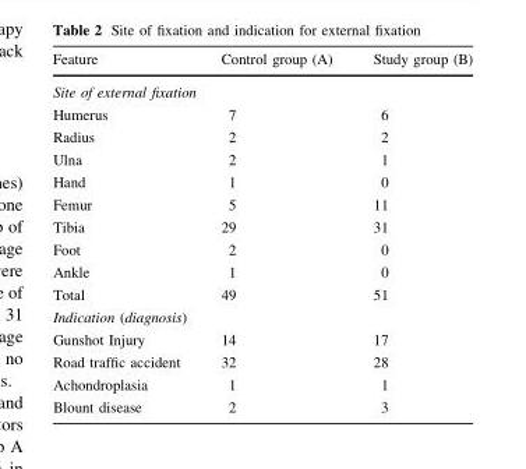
<table><thead><tr><td>Feature</td><td>Control group (A)</td><td>Study group (B)</td></tr></thead><tbody><tr><td colspan="3">Site of external fixation</td></tr><tr><td>Humerus</td><td>7</td><td>6</td></tr><tr><td>Radius</td><td>2</td><td>2</td></tr><tr><td>Ulna</td><td>2</td><td>1</td></tr><tr><td>Hand</td><td>1</td><td>0</td></tr><tr><td>Femur</td><td>5</td><td>11</td></tr><tr><td>Tibia</td><td>29</td><td>31</td></tr><tr><td>Foot</td><td>2</td><td>0</td></tr><tr><td>Ankle</td><td>1</td><td>0</td></tr><tr><td>Total</td><td>49</td><td>51</td></tr><tr><td colspan="3">Indication (diagnosis)</td></tr><tr><td>Gunshot Injury</td><td>14</td><td>17</td></tr><tr><td>Road traffic accident</td><td>32</td><td>28</td></tr><tr><td>Achondroplasia</td><td>1</td><td>1</td></tr><tr><td>Blount disease</td><td>2</td><td>3</td></tr></tbody></table>